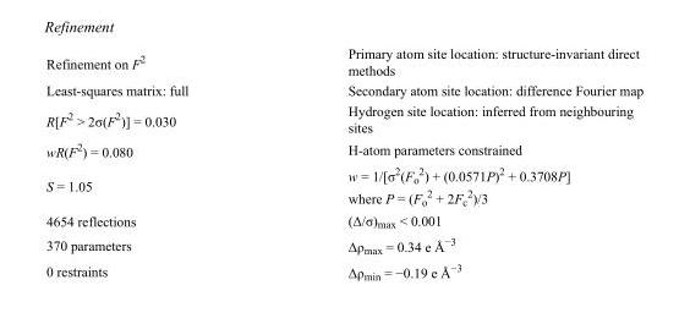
<table><tbody><tr><td>Refinement on F<sup>2</sup></td><td>Primary atom site location: structure-invariant direct methods</td></tr><tr><td>Least-squares matrix: full</td><td>Secondary atom site location: difference Fourier map</td></tr><tr><td>R[F<sup>2</sup> &gt; 2σ(F<sup>2</sup>)] = 0.030</td><td>Hydrogen site location: inferred from neighbouring sites</td></tr><tr><td>wR(F<sup>2</sup>) = 0.080</td><td>H-atom parameters constrained</td></tr><tr><td>S = 1.05</td><td>w = 1/[σ<sup>2</sup>(F<sub>o</sub> <sup>2</sup>) + (0.0571P)<sup>2</sup> + 0.3708P] where P = (F<sub>o</sub> <sup>2</sup> + 2F<sub>c</sub> <sup>2</sup>)/3</td></tr><tr><td>4654 reflections</td><td>(Δ/σ)<sub>max</sub> &lt; 0.001</td></tr><tr><td>370 parameters</td><td>Δρ<sub>max</sub> = 0.34 e Å<sup>−3</sup></td></tr><tr><td>0 restraints</td><td>Δρ<sub>min</sub> = −0.19 e Å<sup>−3</sup></td></tr></tbody></table>